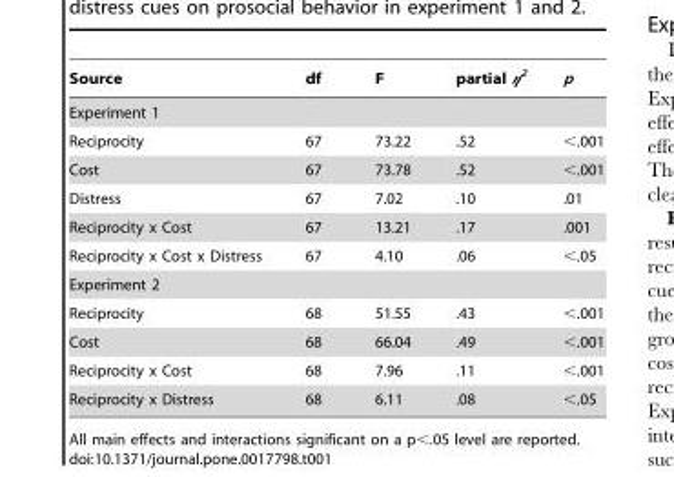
<table><thead><tr><td>Source</td><td>df</td><td>F</td><td>partial η<sup>2</sup></td><td>p</td></tr></thead><tbody><tr><td colspan="5">Experiment 1</td></tr><tr><td>Reciprocity</td><td>67</td><td>73.22</td><td>.52</td><td>&lt;.001</td></tr><tr><td>Cost</td><td>67</td><td>73.78</td><td>.52</td><td>&lt;.001</td></tr><tr><td>Distress</td><td>67</td><td>7.02</td><td>.10</td><td>.01</td></tr><tr><td>Reciprocity x Cost</td><td>67</td><td>13.21</td><td>.17</td><td>.001</td></tr><tr><td>Reciprocity x Cost x Distress</td><td>67</td><td>4.10</td><td>.06</td><td>&lt;.05</td></tr><tr><td colspan="5">Experiment 2</td></tr><tr><td>Reciprocity</td><td>68</td><td>51.55</td><td>.43</td><td>&lt;.001</td></tr><tr><td>Cost</td><td>68</td><td>66.04</td><td>.49</td><td>&lt;.001</td></tr><tr><td>Reciprocity x Cost</td><td>68</td><td>7.96</td><td>.11</td><td>&lt;.001</td></tr><tr><td>Reciprocity x Distress</td><td>68</td><td>6.11</td><td>.08</td><td>&lt;.05</td></tr></tbody></table>